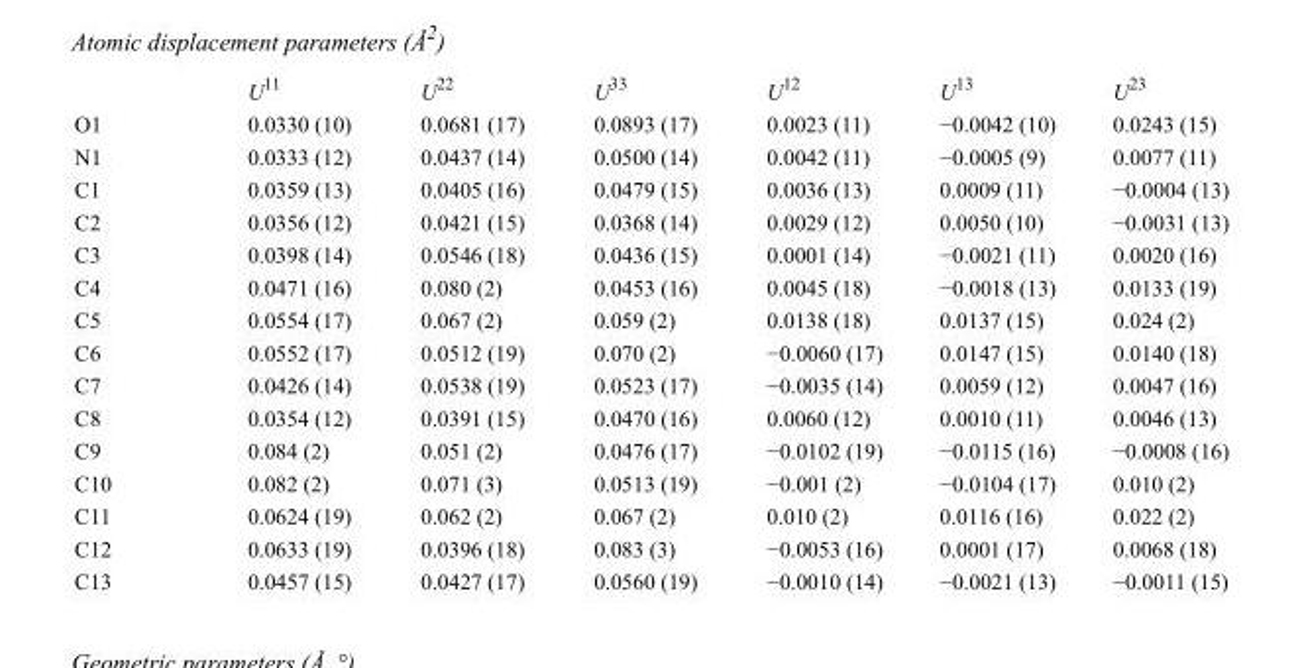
<table><thead><tr><td></td><td>U<sup>11</sup></td><td>U<sup>22</sup></td><td>U<sup>33</sup></td><td>U<sup>12</sup></td><td>U<sup>13</sup></td><td>U<sup>23</sup></td></tr></thead><tbody><tr><td>O1</td><td>0.0330 (10)</td><td>0.0681 (17)</td><td>0.0893 (17)</td><td>0.0023 (11)</td><td>−0.0042 (10)</td><td>0.0243 (15)</td></tr><tr><td>N1</td><td>0.0333 (12)</td><td>0.0437 (14)</td><td>0.0500 (14)</td><td>0.0042 (11)</td><td>−0.0005 (9)</td><td>0.0077 (11)</td></tr><tr><td>C1</td><td>0.0359 (13)</td><td>0.0405 (16)</td><td>0.0479 (15)</td><td>0.0036 (13)</td><td>0.0009 (11)</td><td>−0.0004 (13)</td></tr><tr><td>C2</td><td>0.0356 (12)</td><td>0.0421 (15)</td><td>0.0368 (14)</td><td>0.0029 (12)</td><td>0.0050 (10)</td><td>−0.0031 (13)</td></tr><tr><td>C3</td><td>0.0398 (14)</td><td>0.0546 (18)</td><td>0.0436 (15)</td><td>0.0001 (14)</td><td>−0.0021 (11)</td><td>0.0020 (16)</td></tr><tr><td>C4</td><td>0.0471 (16)</td><td>0.080 (2)</td><td>0.0453 (16)</td><td>0.0045 (18)</td><td>−0.0018 (13)</td><td>0.0133 (19)</td></tr><tr><td>C5</td><td>0.0554 (17)</td><td>0.067 (2)</td><td>0.059 (2)</td><td>0.0138 (18)</td><td>0.0137 (15)</td><td>0.024 (2)</td></tr><tr><td>C6</td><td>0.0552 (17)</td><td>0.0512 (19)</td><td>0.070 (2)</td><td>−0.0060 (17)</td><td>0.0147 (15)</td><td>0.0140 (18)</td></tr><tr><td>C7</td><td>0.0426 (14)</td><td>0.0538 (19)</td><td>0.0523 (17)</td><td>−0.0035 (14)</td><td>0.0059 (12)</td><td>0.0047 (16)</td></tr><tr><td>C8</td><td>0.0354 (12)</td><td>0.0391 (15)</td><td>0.0470 (16)</td><td>0.0060 (12)</td><td>0.0010 (11)</td><td>0.0046 (13)</td></tr><tr><td>C9</td><td>0.084 (2)</td><td>0.051 (2)</td><td>0.0476 (17)</td><td>−0.0102 (19)</td><td>−0.0115 (16)</td><td>−0.0008 (16)</td></tr><tr><td>C10</td><td>0.082 (2)</td><td>0.071 (3)</td><td>0.0513 (19)</td><td>−0.001 (2)</td><td>−0.0104 (17)</td><td>0.010 (2)</td></tr><tr><td>C11</td><td>0.0624 (19)</td><td>0.062 (2)</td><td>0.067 (2)</td><td>0.010 (2)</td><td>0.0116 (16)</td><td>0.022 (2)</td></tr><tr><td>C12</td><td>0.0633 (19)</td><td>0.0396 (18)</td><td>0.083 (3)</td><td>−0.0053 (16)</td><td>0.0001 (17)</td><td>0.0068 (18)</td></tr><tr><td>C13</td><td>0.0457 (15)</td><td>0.0427 (17)</td><td>0.0560 (19)</td><td>−0.0010 (14)</td><td>−0.0021 (13)</td><td>−0.0011 (15)</td></tr></tbody></table>